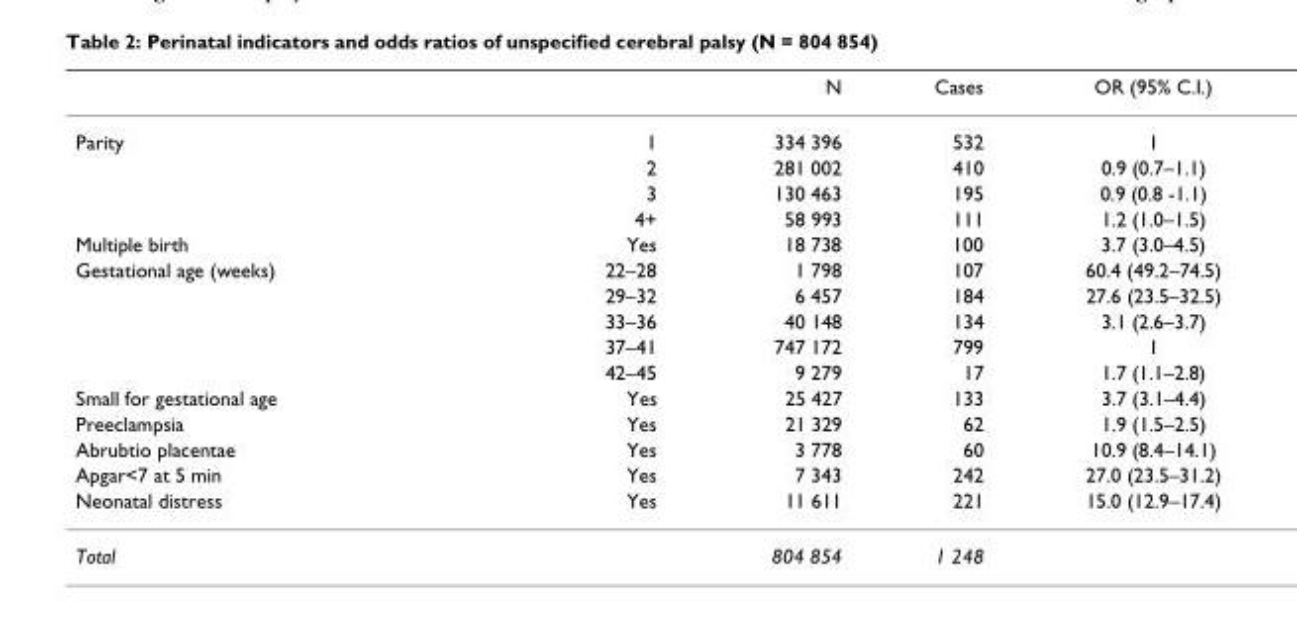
<table><thead><tr><td></td><td></td><td>N</td><td>Cases</td><td>OR (95% C.I.)</td></tr></thead><tbody><tr><td rowspan="4">Parity</td><td>1</td><td>334 396</td><td>532</td><td>1</td></tr><tr><td>2</td><td>281 002</td><td>410</td><td>0.9 (0.7–1.1)</td></tr><tr><td>3</td><td>130 463</td><td>195</td><td>0.9 (0.8 -1.1)</td></tr><tr><td>4+</td><td>58 993</td><td>111</td><td>1.2 (1.0–1.5)</td></tr><tr><td>Multiple birth</td><td>Yes</td><td>18 738</td><td>100</td><td>3.7 (3.0–4.5)</td></tr><tr><td rowspan="5">Gestational age (weeks)</td><td>22–28</td><td>1 798</td><td>107</td><td>60.4 (49.2–74.5)</td></tr><tr><td>29–32</td><td>6 457</td><td>184</td><td>27.6 (23.5–32.5)</td></tr><tr><td>33–36</td><td>40 148</td><td>134</td><td>3.1 (2.6–3.7)</td></tr><tr><td>37–41</td><td>747 172</td><td>799</td><td>1</td></tr><tr><td>42–45</td><td>9 279</td><td>17</td><td>1.7 (1.1–2.8)</td></tr><tr><td>Small for gestational age</td><td>Yes</td><td>25 427</td><td>133</td><td>3.7 (3.1–4.4)</td></tr><tr><td>Preeclampsia</td><td>Yes</td><td>21 329</td><td>62</td><td>1.9 (1.5–2.5)</td></tr><tr><td>Abrubtio placentae</td><td>Yes</td><td>3 778</td><td>60</td><td>10.9 (8.4–14.1)</td></tr><tr><td>Apgar&lt;7 at 5 min</td><td>Yes</td><td>7 343</td><td>242</td><td>27.0 (23.5–31.2)</td></tr><tr><td>Neonatal distress</td><td>Yes</td><td>11 611</td><td>221</td><td>15.0 (12.9–17.4)</td></tr><tr><td>Total</td><td></td><td>804 854</td><td>1 248</td><td></td></tr></tbody></table>